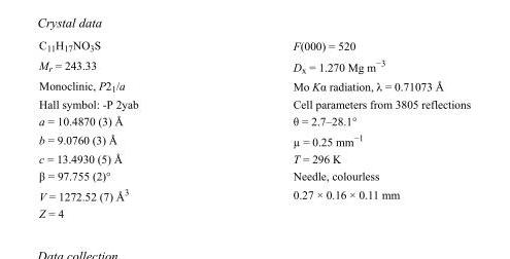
<table><tbody><tr><td>C<sub>11</sub>H<sub>17</sub>NO<sub>3</sub>S</td><td>F(000) = 520</td></tr><tr><td>M<sub>r</sub> = 243.33</td><td>D<sub>x</sub> = 1.270 Mg m<sup>−3</sup></td></tr><tr><td>Monoclinic, P2<sub>1</sub>/a</td><td>Mo Kα radiation, λ = 0.71073 Å</td></tr><tr><td>Hall symbol: -P 2yab</td><td>Cell parameters from 3805 reflections</td></tr><tr><td>a = 10.4870 (3) Å</td><td>θ = 2.7–28.1°</td></tr><tr><td>b = 9.0760 (3) Å</td><td>µ = 0.25 mm<sup>−1</sup></td></tr><tr><td>c = 13.4930 (5) Å</td><td>T = 296 K</td></tr><tr><td>β = 97.755 (2)°</td><td>Needle, colourless</td></tr><tr><td>V = 1272.52 (7) Å<sup>3</sup></td><td>0.27 × 0.16 × 0.11 mm</td></tr><tr><td>Z = 4</td><td></td></tr></tbody></table>